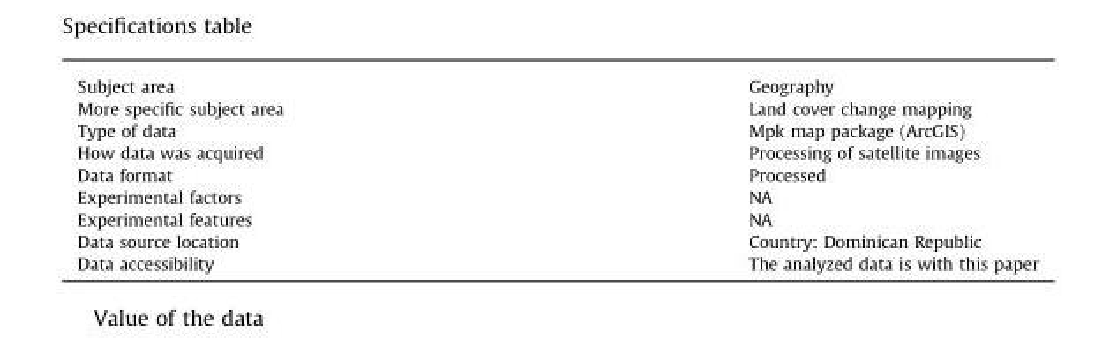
<table><tbody><tr><td>Subject area</td><td>Geography</td></tr><tr><td>More specific subject area</td><td>Land cover change mapping</td></tr><tr><td>Type of data</td><td>Mpk map package (ArcGIS)</td></tr><tr><td>How data was acquired</td><td>Processing of satellite images</td></tr><tr><td>Data format</td><td>Processed</td></tr><tr><td>Experimental factors</td><td>NA</td></tr><tr><td>Experimental features</td><td>NA</td></tr><tr><td>Data source location</td><td>Country: Dominican Republic</td></tr><tr><td>Data accessibility</td><td>The analyzed data is with this paper</td></tr></tbody></table>